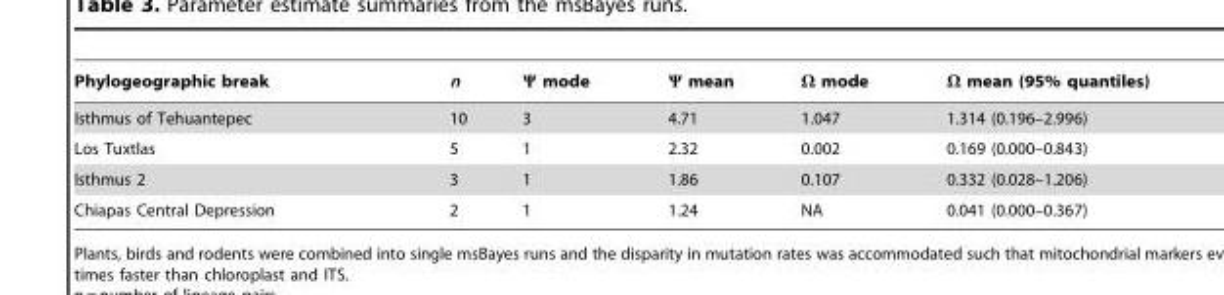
<table><thead><tr><td>Phylogeographic break</td><td>n</td><td>Ψ mode</td><td>Ψ mean</td><td>Ω mode</td><td>Ω mean (95% quantiles)</td></tr></thead><tbody><tr><td>Isthmus of Tehuantepec</td><td>10</td><td>3</td><td>4.71</td><td>1.047</td><td>1.314 (0.196–2.996)</td></tr><tr><td>Los Tuxtlas</td><td>5</td><td>1</td><td>2.32</td><td>0.002</td><td>0.169 (0.000–0.843)</td></tr><tr><td>Isthmus 2</td><td>3</td><td>1</td><td>1.86</td><td>0.107</td><td>0.332 (0.028–1.206)</td></tr><tr><td>Chiapas Central Depression</td><td>2</td><td>1</td><td>1.24</td><td>NA</td><td>0.041 (0.000–0.367)</td></tr></tbody></table>